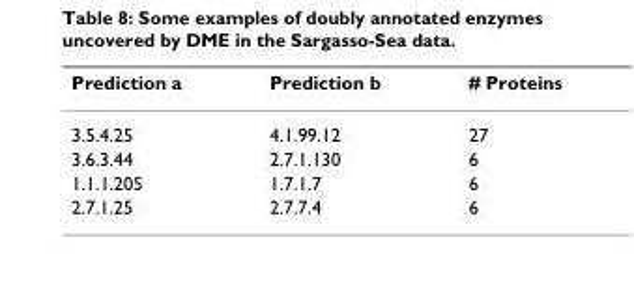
<table><thead><tr><td>Prediction a</td><td>Prediction b</td><td># Proteins</td></tr></thead><tbody><tr><td>3.5.4.25</td><td>4.1.99.12</td><td>27</td></tr><tr><td>3.6.3.44</td><td>2.7.1.130</td><td>6</td></tr><tr><td>1.1.1.205</td><td>1.7.1.7</td><td>6</td></tr><tr><td>2.7.1.25</td><td>2.7.7.4</td><td>6</td></tr></tbody></table>